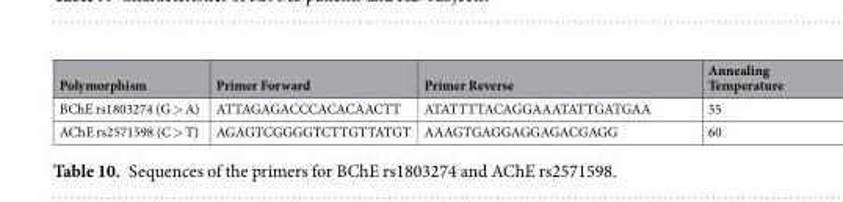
<table><thead><tr><td>Polymorphism</td><td>Primer Forward</td><td>Primer Reverse</td><td>Annealing Temperature</td></tr></thead><tbody><tr><td>BChE rs1803274 (G &gt; A)</td><td>ATTAGAGACCCACACAACTT</td><td>ATATTTTACAGGAAATATTGATGAA</td><td>55</td></tr><tr><td>AChE rs2571598 (C &gt; T)</td><td>AGAGTCGGGGTCTTGTTATGT</td><td>AAAGTGAGGAGGAGACGAGG</td><td>60</td></tr></tbody></table>